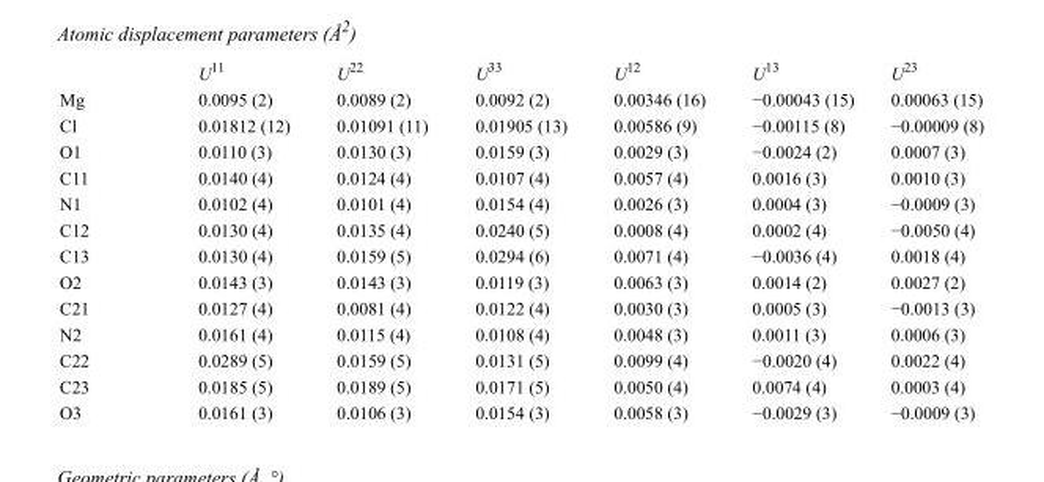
<table><thead><tr><td></td><td>U<sup>11</sup></td><td>U<sup>22</sup></td><td>U<sup>33</sup></td><td>U<sup>12</sup></td><td>U<sup>13</sup></td><td>U<sup>23</sup></td></tr></thead><tbody><tr><td>Mg</td><td>0.0095 (2)</td><td>0.0089 (2)</td><td>0.0092 (2)</td><td>0.00346 (16)</td><td>−0.00043 (15)</td><td>0.00063 (15)</td></tr><tr><td>Cl</td><td>0.01812 (12)</td><td>0.01091 (11)</td><td>0.01905 (13)</td><td>0.00586 (9)</td><td>−0.00115 (8)</td><td>−0.00009 (8)</td></tr><tr><td>O1</td><td>0.0110 (3)</td><td>0.0130 (3)</td><td>0.0159 (3)</td><td>0.0029 (3)</td><td>−0.0024 (2)</td><td>0.0007 (3)</td></tr><tr><td>C11</td><td>0.0140 (4)</td><td>0.0124 (4)</td><td>0.0107 (4)</td><td>0.0057 (4)</td><td>0.0016 (3)</td><td>0.0010 (3)</td></tr><tr><td>N1</td><td>0.0102 (4)</td><td>0.0101 (4)</td><td>0.0154 (4)</td><td>0.0026 (3)</td><td>0.0004 (3)</td><td>−0.0009 (3)</td></tr><tr><td>C12</td><td>0.0130 (4)</td><td>0.0135 (4)</td><td>0.0240 (5)</td><td>0.0008 (4)</td><td>0.0002 (4)</td><td>−0.0050 (4)</td></tr><tr><td>C13</td><td>0.0130 (4)</td><td>0.0159 (5)</td><td>0.0294 (6)</td><td>0.0071 (4)</td><td>−0.0036 (4)</td><td>0.0018 (4)</td></tr><tr><td>O2</td><td>0.0143 (3)</td><td>0.0143 (3)</td><td>0.0119 (3)</td><td>0.0063 (3)</td><td>0.0014 (2)</td><td>0.0027 (2)</td></tr><tr><td>C21</td><td>0.0127 (4)</td><td>0.0081 (4)</td><td>0.0122 (4)</td><td>0.0030 (3)</td><td>0.0005 (3)</td><td>−0.0013 (3)</td></tr><tr><td>N2</td><td>0.0161 (4)</td><td>0.0115 (4)</td><td>0.0108 (4)</td><td>0.0048 (3)</td><td>0.0011 (3)</td><td>0.0006 (3)</td></tr><tr><td>C22</td><td>0.0289 (5)</td><td>0.0159 (5)</td><td>0.0131 (5)</td><td>0.0099 (4)</td><td>−0.0020 (4)</td><td>0.0022 (4)</td></tr><tr><td>C23</td><td>0.0185 (5)</td><td>0.0189 (5)</td><td>0.0171 (5)</td><td>0.0050 (4)</td><td>0.0074 (4)</td><td>0.0003 (4)</td></tr><tr><td>O3</td><td>0.0161 (3)</td><td>0.0106 (3)</td><td>0.0154 (3)</td><td>0.0058 (3)</td><td>−0.0029 (3)</td><td>−0.0009 (3)</td></tr></tbody></table>